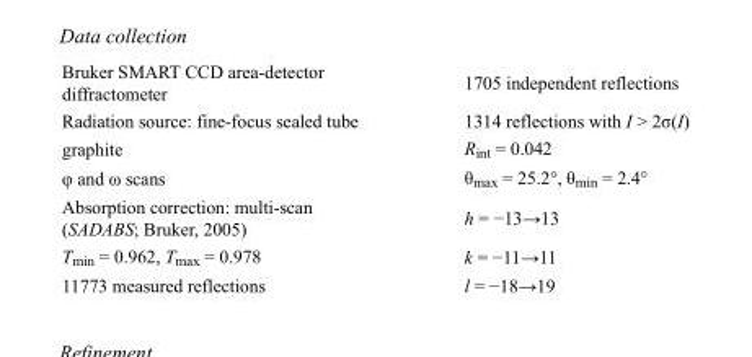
<table><tbody><tr><td>Bruker SMART CCD area-detector diffractometer</td><td>1705 independent reflections</td></tr><tr><td>Radiation source: fine-focus sealed tube</td><td>1314 reflections with I &gt; 2σ(I)</td></tr><tr><td>graphite</td><td>R<sub>int</sub> = 0.042</td></tr><tr><td>φ and ω scans</td><td>θ<sub>max</sub> = 25.2°, θ<sub>min</sub> = 2.4°</td></tr><tr><td>Absorption correction: multi-scan (SADABS; Bruker, 2005)</td><td>h = −13→13</td></tr><tr><td>T<sub>min</sub> = 0.962, T<sub>max</sub> = 0.978</td><td>k = −11→11</td></tr><tr><td>11773 measured reflections</td><td>l = −18→19</td></tr></tbody></table>